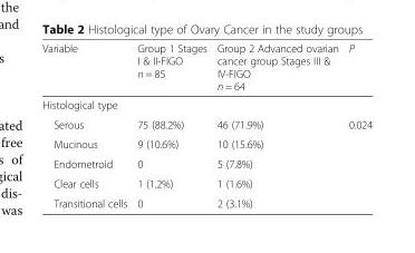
<table><thead><tr><td>Variable</td><td>Group 1 Stages I &amp; II-FIGO n = 85</td><td>Group 2 Advanced ovarian cancer group Stages III &amp; IV-FIGO n = 64</td><td>P</td></tr></thead><tbody><tr><td colspan="4">Histological type</td></tr><tr><td>Serous</td><td>75 (88.2%)</td><td>46 (71.9%)</td><td rowspan="5">0.024</td></tr><tr><td>Mucinous</td><td>9 (10.6%)</td><td>10 (15.6%)</td></tr><tr><td>Endometroid</td><td>0</td><td>5 (7.8%)</td></tr><tr><td>Clear cells</td><td>1 (1.2%)</td><td>1 (1.6%)</td></tr><tr><td>Transitional cells</td><td>0</td><td>2 (3.1%)</td></tr></tbody></table>